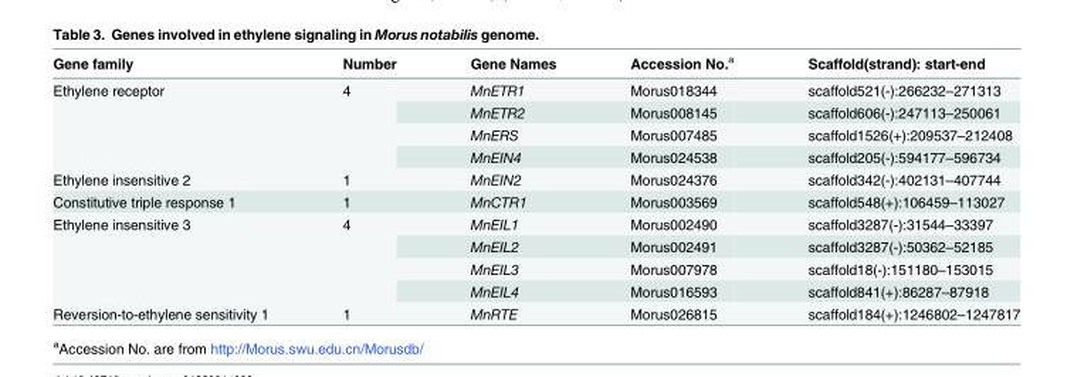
<table><thead><tr><td>Gene family</td><td>Number</td><td>Gene Names</td><td>Accession No.<sup>a</sup></td><td>Scaffold(strand): start-end</td></tr></thead><tbody><tr><td rowspan="4">Ethylene receptor</td><td rowspan="4">4</td><td>MnETR1</td><td>Morus018344</td><td>scaffold521(-):266232–271313</td></tr><tr><td>MnETR2</td><td>Morus008145</td><td>scaffold606(-):247113–250061</td></tr><tr><td>MnERS</td><td>Morus007485</td><td>scaffold1526(+):209537–212408</td></tr><tr><td>MnEIN4</td><td>Morus024538</td><td>scaffold205(-):594177–596734</td></tr><tr><td>Ethylene insensitive 2</td><td>1</td><td>MnEIN2</td><td>Morus024376</td><td>scaffold342(-):402131–407744</td></tr><tr><td>Constitutive triple response 1</td><td>1</td><td>MnCTR1</td><td>Morus003569</td><td>scaffold548(+):106459–113027</td></tr><tr><td rowspan="4">Ethylene insensitive 3</td><td rowspan="4">4</td><td>MnEIL1</td><td>Morus002490</td><td>scaffold3287(-):31544–33397</td></tr><tr><td>MnEIL2</td><td>Morus002491</td><td>scaffold3287(-):50362–52185</td></tr><tr><td>MnEIL3</td><td>Morus007978</td><td>scaffold18(-):151180–153015</td></tr><tr><td>MnEIL4</td><td>Morus016593</td><td>scaffold841(+):86287–87918</td></tr><tr><td>Reversion-to-ethylene sensitivity 1</td><td>1</td><td>MnRTE</td><td>Morus026815</td><td>scaffold184(+):1246802–1247817</td></tr></tbody></table>